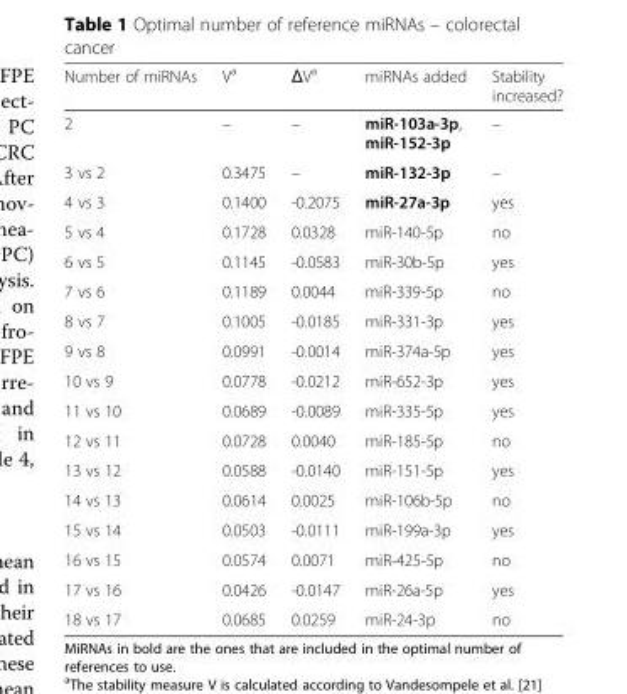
<table><thead><tr><td>Number of miRNAs</td><td>V<sup>a</sup></td><td>ΔV<sup>a</sup></td><td>miRNAs added</td><td>Stability increased?</td></tr></thead><tbody><tr><td>2</td><td>–</td><td>–</td><td>miR-103a-3p, miR-152-3p</td><td>–</td></tr><tr><td>3 vs 2</td><td>0.3475</td><td>–</td><td>miR-132-3p</td><td>–</td></tr><tr><td>4 vs 3</td><td>0.1400</td><td>-0.2075</td><td>miR-27a-3p</td><td>yes</td></tr><tr><td>5 vs 4</td><td>0.1728</td><td>0.0328</td><td>miR-140-5p</td><td>no</td></tr><tr><td>6 vs 5</td><td>0.1145</td><td>-0.0583</td><td>miR-30b-5p</td><td>yes</td></tr><tr><td>7 vs 6</td><td>0.1189</td><td>0.0044</td><td>miR-339-5p</td><td>no</td></tr><tr><td>8 vs 7</td><td>0.1005</td><td>-0.0185</td><td>miR-331-3p</td><td>yes</td></tr><tr><td>9 vs 8</td><td>0.0991</td><td>-0.0014</td><td>miR-374a-5p</td><td>yes</td></tr><tr><td>10 vs 9</td><td>0.0778</td><td>-0.0212</td><td>miR-652-3p</td><td>yes</td></tr><tr><td>11 vs 10</td><td>0.0689</td><td>-0.0089</td><td>miR-335-5p</td><td>yes</td></tr><tr><td>12 vs 11</td><td>0.0728</td><td>0.0040</td><td>miR-185-5p</td><td>no</td></tr><tr><td>13 vs 12</td><td>0.0588</td><td>-0.0140</td><td>miR-151-5p</td><td>yes</td></tr><tr><td>14 vs 13</td><td>0.0614</td><td>0.0025</td><td>miR-106b-5p</td><td>no</td></tr><tr><td>15 vs 14</td><td>0.0503</td><td>-0.0111</td><td>miR-199a-3p</td><td>yes</td></tr><tr><td>16 vs 15</td><td>0.0574</td><td>0.0071</td><td>miR-425-5p</td><td>no</td></tr><tr><td>17 vs 16</td><td>0.0426</td><td>-0.0147</td><td>miR-26a-5p</td><td>yes</td></tr><tr><td>18 vs 17</td><td>0.0685</td><td>0.0259</td><td>miR-24-3p</td><td>no</td></tr></tbody></table>